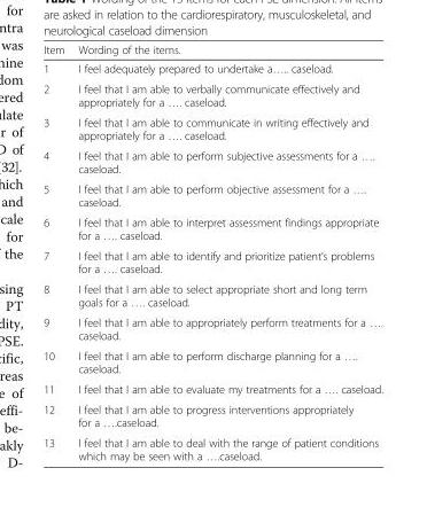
<table><thead><tr><td>Item</td><td>Wording of the items.</td></tr></thead><tbody><tr><td>1</td><td>I feel adequately prepared to undertake a….. caseload.</td></tr><tr><td>2</td><td>I feel that I am able to verbally communicate effectively and appropriately for a …. caseload.</td></tr><tr><td>3</td><td>I feel that I am able to communicate in writing effectively and appropriately for a …. caseload.</td></tr><tr><td>4</td><td>I feel that I am able to perform subjective assessments for a …. caseload.</td></tr><tr><td>5</td><td>I feel that I am able to perform objective assessment for a …. caseload.</td></tr><tr><td>6</td><td>I feel that I am able to interpret assessment findings appropriate for a …. caseload.</td></tr><tr><td>7</td><td>I feel that I am able to identify and prioritize patient’s problems for a …. caseload.</td></tr><tr><td>8</td><td>I feel that I am able to select appropriate short and long term goals for a …. caseload.</td></tr><tr><td>9</td><td>I feel that I am able to appropriately perform treatments for a …. caseload.</td></tr><tr><td>10</td><td>I feel that I am able to perform discharge planning for a …. caseload.</td></tr><tr><td>11</td><td>I feel that I am able to evaluate my treatments for a …. caseload.</td></tr><tr><td>12</td><td>I feel that I am able to progress interventions appropriately for a ….caseload.</td></tr><tr><td>13</td><td>I feel that I am able to deal with the range of patient conditions which may be seen with a ….caseload.</td></tr></tbody></table>